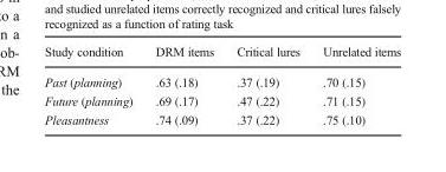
<table><thead><tr><td>Study condition</td><td>DRM items</td><td>Critical lures</td><td>Unrelated items</td></tr></thead><tbody><tr><td>Past (planning)</td><td>.63 (.18)</td><td>.37 (.19)</td><td>.70 (.15)</td></tr><tr><td>Future (planning)</td><td>.69 (.17)</td><td>.47 (.22)</td><td>.71 (.15)</td></tr><tr><td>Pleasantness</td><td>.74 (.09)</td><td>.37 (.22)</td><td>.75 (.10)</td></tr></tbody></table>